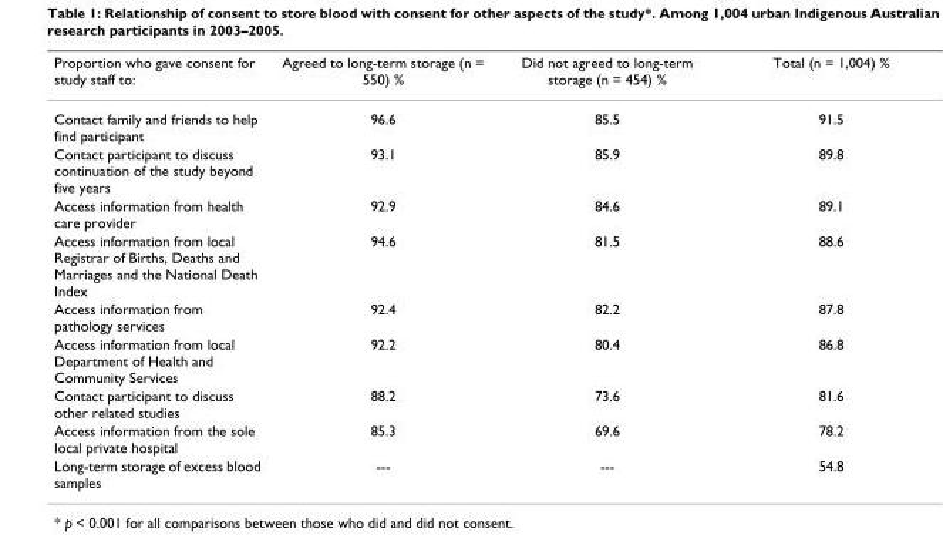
<table><thead><tr><td>Proportion who gave consent for study staff to:</td><td>Agreed to long-term storage (n = 550) %</td><td>Did not agreed to long-term storage (n = 454) %</td><td>Total (n = 1,004) %</td></tr></thead><tbody><tr><td>Contact family and friends to help find participant</td><td>96.6</td><td>85.5</td><td>91.5</td></tr><tr><td>Contact participant to discuss continuation of the study beyond five years</td><td>93.1</td><td>85.9</td><td>89.8</td></tr><tr><td>Access information from health care provider</td><td>92.9</td><td>84.6</td><td>89.1</td></tr><tr><td>Access information from local Registrar of Births, Deaths and Marriages and the National Death Index</td><td>94.6</td><td>81.5</td><td>88.6</td></tr><tr><td>Access information from pathology services</td><td>92.4</td><td>82.2</td><td>87.8</td></tr><tr><td>Access information from local Department of Health and Community Services</td><td>92.2</td><td>80.4</td><td>86.8</td></tr><tr><td>Contact participant to discuss other related studies</td><td>88.2</td><td>73.6</td><td>81.6</td></tr><tr><td>Access information from the sole local private hospital</td><td>85.3</td><td>69.6</td><td>78.2</td></tr><tr><td>Long-term storage of excess blood samples</td><td>---</td><td>---</td><td>54.8</td></tr></tbody></table>